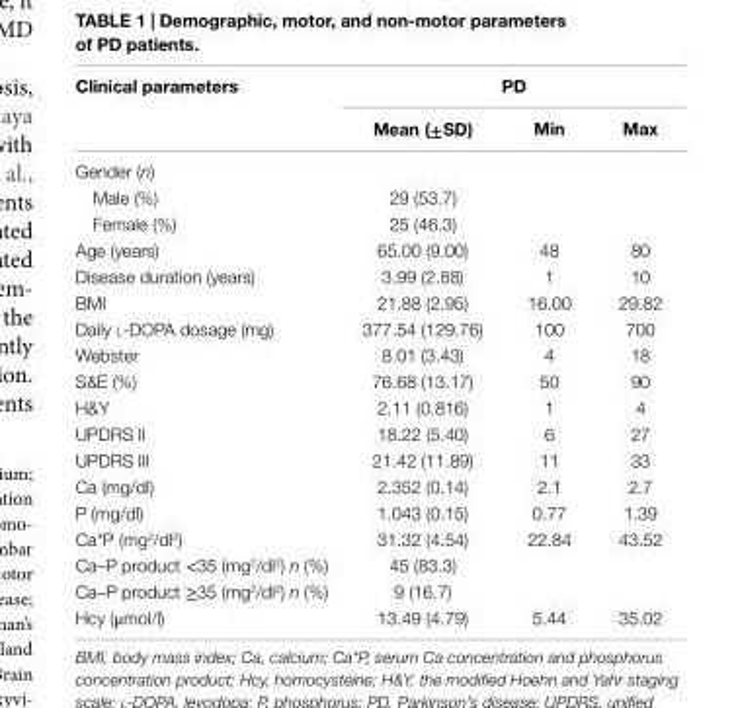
<table><thead><tr><td rowspan="2">clinical parameters</td><td colspan="3">PD</td></tr><tr><td>Mean (±sD)</td><td>Min</td><td>Max</td></tr></thead><tbody><tr><td colspan="4">Gender (n)</td></tr><tr><td>Male (%)</td><td>29 (53.7)</td><td></td><td></td></tr><tr><td>Female (%)</td><td>25 (46.3)</td><td></td><td></td></tr><tr><td>Age (years)</td><td>65.00 (9.00)</td><td>48</td><td>80</td></tr><tr><td>Disease duration (years)</td><td>3.99 (2.88)</td><td>1</td><td>10</td></tr><tr><td>BMI</td><td>21.88 (2.95)</td><td>16.00</td><td>29.82</td></tr><tr><td>Daily l-DOPA dosage (mg)</td><td>377.54 (129.76)</td><td>100</td><td>700</td></tr><tr><td>Webster</td><td>8.01 (3.43)</td><td>4</td><td>18</td></tr><tr><td>S&amp;E (%)</td><td>76.68 (13.17)</td><td>50</td><td>90</td></tr><tr><td>H&amp;Y</td><td>2.11 (0.816)</td><td>1</td><td>4</td></tr><tr><td>UPDRS II</td><td>18.22 (5.40)</td><td>6</td><td>27</td></tr><tr><td>UPDRS III</td><td>21.42 (11.89)</td><td>11</td><td>33</td></tr><tr><td>Ca (mg/dl)</td><td>2.352 (0.14)</td><td>2.1</td><td>2.7</td></tr><tr><td>P (mg/dl)</td><td>1.043 (0.15)</td><td>0.77</td><td>1.39</td></tr><tr><td>Ca*P (mg<sup>2</sup>/dl<sup>2</sup>)</td><td>31.32 (4.54)</td><td>22.84</td><td>43.52</td></tr><tr><td>Ca–P product &lt;35 (mg<sup>2</sup>/dl<sup>2</sup>) n (%)</td><td>45 (83.3)</td><td></td><td></td></tr><tr><td>Ca–P product ≥35 (mg<sup>2</sup>/dl<sup>2</sup>) n (%)</td><td>9 (16.7)</td><td></td><td></td></tr><tr><td>Hcy (μmol/l)</td><td>13.49 (4.79)</td><td>5.44</td><td>35.02</td></tr></tbody></table>